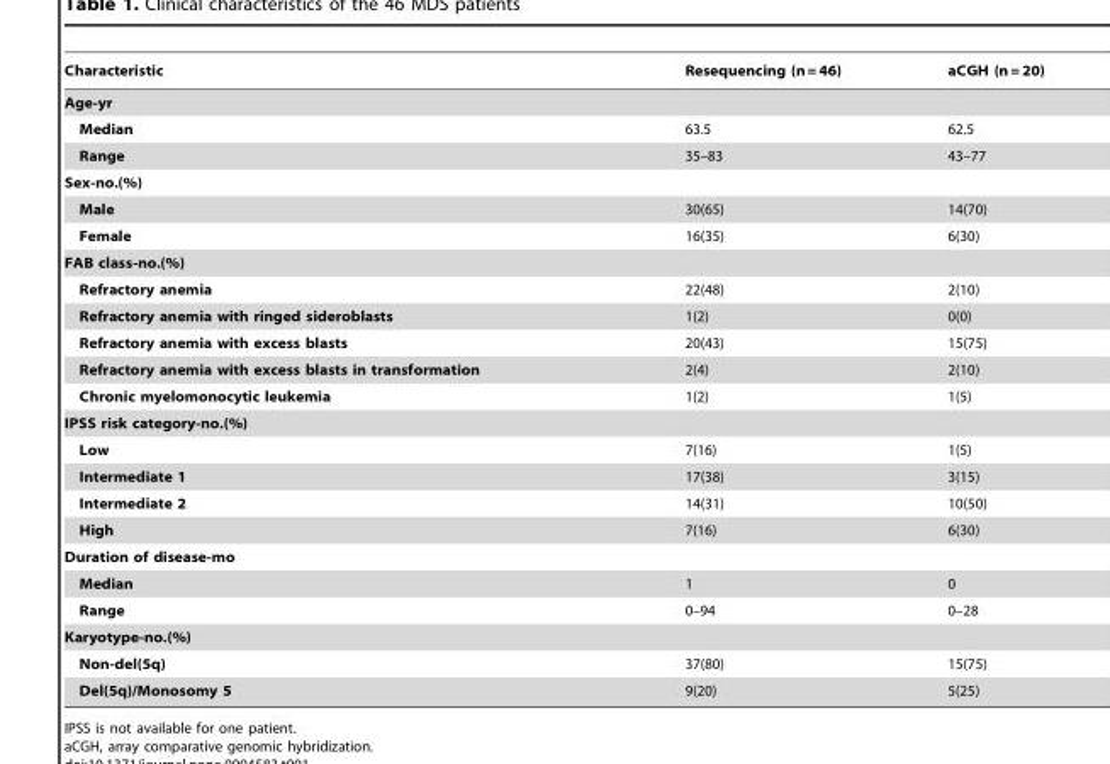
<table><thead><tr><td>Characteristic</td><td>Resequencing (n = 46)</td><td>aCGH (n = 20)</td></tr></thead><tbody><tr><td colspan="3">Age-yr</td></tr><tr><td>Median</td><td>63.5</td><td>62.5</td></tr><tr><td>Range</td><td>35–83</td><td>43–77</td></tr><tr><td colspan="3">Sex-no.(%)</td></tr><tr><td>Male</td><td>30(65)</td><td>14(70)</td></tr><tr><td>Female</td><td>16(35)</td><td>6(30)</td></tr><tr><td colspan="3">FAB class-no.(%)</td></tr><tr><td>Refractory anemia</td><td>22(48)</td><td>2(10)</td></tr><tr><td>Refractory anemia with ringed sideroblasts</td><td>1(2)</td><td>0(0)</td></tr><tr><td>Refractory anemia with excess blasts</td><td>20(43)</td><td>15(75)</td></tr><tr><td>Refractory anemia with excess blasts in transformation</td><td>2(4)</td><td>2(10)</td></tr><tr><td>Chronic myelomonocytic leukemia</td><td>1(2)</td><td>1(5)</td></tr><tr><td colspan="3">IPSS risk category-no.(%)</td></tr><tr><td>Low</td><td>7(16)</td><td>1(5)</td></tr><tr><td>Intermediate 1</td><td>17(38)</td><td>3(15)</td></tr><tr><td>Intermediate 2</td><td>14(31)</td><td>10(50)</td></tr><tr><td>High</td><td>7(16)</td><td>6(30)</td></tr><tr><td colspan="3">Duration of disease-mo</td></tr><tr><td>Median</td><td>1</td><td>0</td></tr><tr><td>Range</td><td>0–94</td><td>0–28</td></tr><tr><td colspan="3">Karyotype-no.(%)</td></tr><tr><td>Non-del(5q)</td><td>37(80)</td><td>15(75)</td></tr><tr><td>Del(5q)/Monosomy 5</td><td>9(20)</td><td>5(25)</td></tr></tbody></table>